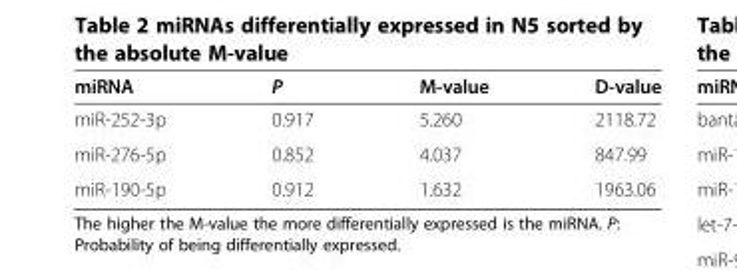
<table><thead><tr><td>miRNA</td><td>P</td><td>M-value</td><td>D-value</td></tr></thead><tbody><tr><td>miR-252-3p</td><td>0.917</td><td>5.260</td><td>2118.72</td></tr><tr><td>miR-276-5p</td><td>0.852</td><td>4.037</td><td>847.99</td></tr><tr><td>miR-190-5p</td><td>0.912</td><td>1.632</td><td>1963.06</td></tr></tbody></table>